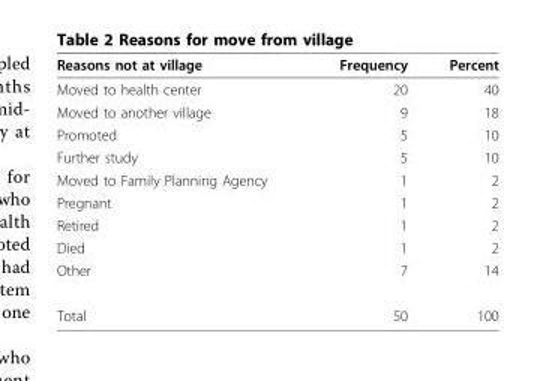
<table><thead><tr><td>Reasons not at village</td><td>Frequency</td><td>Percent</td></tr></thead><tbody><tr><td>Moved to health center</td><td>20</td><td>40</td></tr><tr><td>Moved to another village</td><td>9</td><td>18</td></tr><tr><td>Promoted</td><td>5</td><td>10</td></tr><tr><td>Further study</td><td>5</td><td>10</td></tr><tr><td>Moved to Family Planning Agency</td><td>1</td><td>2</td></tr><tr><td>Pregnant</td><td>1</td><td>2</td></tr><tr><td>Retired</td><td>1</td><td>2</td></tr><tr><td>Died</td><td>1</td><td>2</td></tr><tr><td>Other</td><td>7</td><td>14</td></tr><tr><td>Total</td><td>50</td><td>100</td></tr></tbody></table>